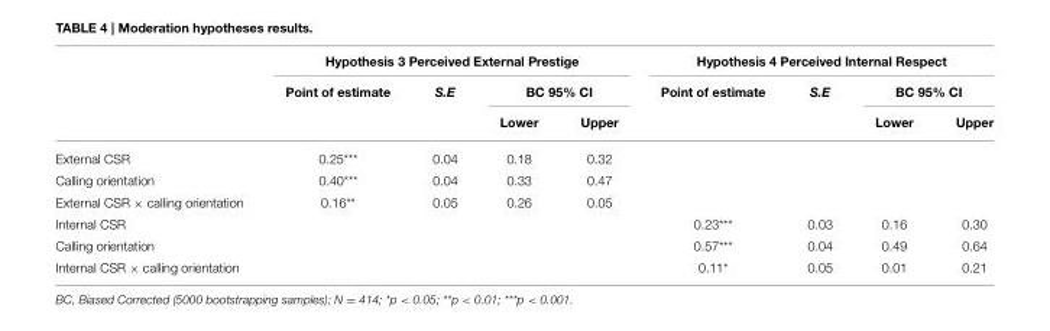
<table><thead><tr><td rowspan="3"></td><td colspan="4">Hypothesis 3 Perceived External Prestige</td><td colspan="4">Hypothesis 4 Perceived Internal Respect</td></tr><tr><td rowspan="2">Point of estimate</td><td rowspan="2">S.E</td><td colspan="2">BC 95% CI</td><td rowspan="2">Point of estimate</td><td rowspan="2">S.E</td><td colspan="2">BC 95% CI</td></tr><tr><td>Lower</td><td>Upper</td><td>Lower</td><td>Upper</td></tr></thead><tbody><tr><td>External CSR</td><td>0.25***</td><td>0.04</td><td>0.18</td><td>0.32</td><td colspan="4"></td></tr><tr><td>Calling orientation</td><td>0.40***</td><td>0.04</td><td>0.33</td><td>0.47</td><td colspan="4"></td></tr><tr><td>External CSR × calling orientation</td><td>0.16**</td><td>0.05</td><td>0.26</td><td>0.05</td><td colspan="4"></td></tr><tr><td>Internal CSR</td><td></td><td></td><td></td><td></td><td>0.23***</td><td>0.03</td><td>0.16</td><td>0.30</td></tr><tr><td>Calling orientation</td><td colspan="4"></td><td>0.57***</td><td>0.04</td><td>0.49</td><td>0.64</td></tr><tr><td>Internal CSR × calling orientation</td><td colspan="4"></td><td>0.11*</td><td>0.05</td><td>0.01</td><td>0.21</td></tr></tbody></table>